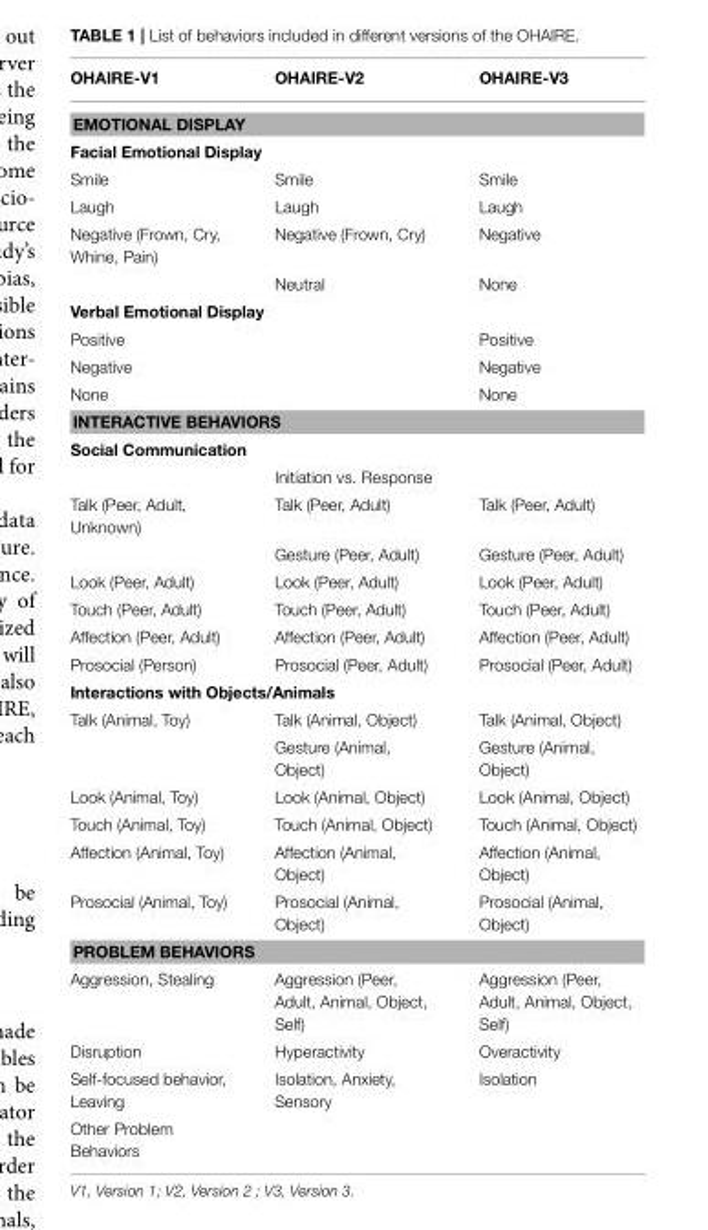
<table><thead><tr><td>OHAIRE-V1</td><td>OHAIRE-V2</td><td>OHAIRE-V3</td></tr></thead><tbody><tr><td colspan="3">EMOTIONAL DISPLAY</td></tr><tr><td colspan="3">Facial Emotional Display</td></tr><tr><td>Smile</td><td>Smile</td><td>Smile</td></tr><tr><td>Laugh</td><td>Laugh</td><td>Laugh</td></tr><tr><td rowspan="2">Negative (Frown, Cry, Whine, Pain)</td><td>Negative (Frown, Cry)</td><td>Negative</td></tr><tr><td>Neutral</td><td>None</td></tr><tr><td colspan="3">Verbal Emotional Display</td></tr><tr><td>Positive</td><td></td><td>Positive</td></tr><tr><td>Negative</td><td></td><td>Negative</td></tr><tr><td>None</td><td></td><td>None</td></tr><tr><td colspan="3">INTERACTIVE BEHAVIORS</td></tr><tr><td colspan="3">Social Communication</td></tr><tr><td></td><td>Initiation vs. Response</td><td></td></tr><tr><td rowspan="2">Talk (Peer, Adult, Unknown)</td><td>Talk (Peer, Adult)</td><td>Talk (Peer, Adult)</td></tr><tr><td>Gesture (Peer, Adult)</td><td>Gesture (Peer, Adult)</td></tr><tr><td>Look (Peer, Adult)</td><td>Look (Peer, Adult)</td><td>Look (Peer, Adult)</td></tr><tr><td>Touch (Peer, Adult)</td><td>Touch (Peer, Adult)</td><td>Touch (Peer, Adult)</td></tr><tr><td>Affection (Peer, Adult)</td><td>Affection (Peer, Adult)</td><td>Affection (Peer, Adult)</td></tr><tr><td>Prosocial (Person)</td><td>Prosocial (Peer, Adult)</td><td>Prosocial (Peer, Adult)</td></tr><tr><td colspan="3">Interactions with Objects/Animals</td></tr><tr><td rowspan="2">Talk (Animal, Toy)</td><td>Talk (Animal, Object)</td><td>Talk (Animal, Object)</td></tr><tr><td>Gesture (Animal, Object)</td><td>Gesture (Animal, Object)</td></tr><tr><td>Look (Animal, Toy)</td><td>Look (Animal, Object)</td><td>Look (Animal, Object)</td></tr><tr><td>Touch (Animal, Toy)</td><td>Touch (Animal, Object)</td><td>Touch (Animal, Object)</td></tr><tr><td>Affection (Animal, Toy)</td><td>Affection (Animal, Object)</td><td>Affection (Animal, Object)</td></tr><tr><td>Prosocial (Animal, Toy)</td><td>Prosocial (Animal, Object)</td><td>Prosocial (Animal, Object)</td></tr><tr><td colspan="3">PROBLEM BEHAVIORS</td></tr><tr><td>Aggression, Stealing</td><td>Aggression (Peer, Adult, Animal, Object, Self)</td><td>Aggression (Peer, Adult, Animal, Object, Self)</td></tr><tr><td>Disruption</td><td>Hyperactivity</td><td>Overactivity</td></tr><tr><td>Self-focused behavior, Leaving</td><td>Isolation, Anxiety, Sensory</td><td>Isolation</td></tr><tr><td>Other Problem Behaviors</td><td></td><td></td></tr></tbody></table>